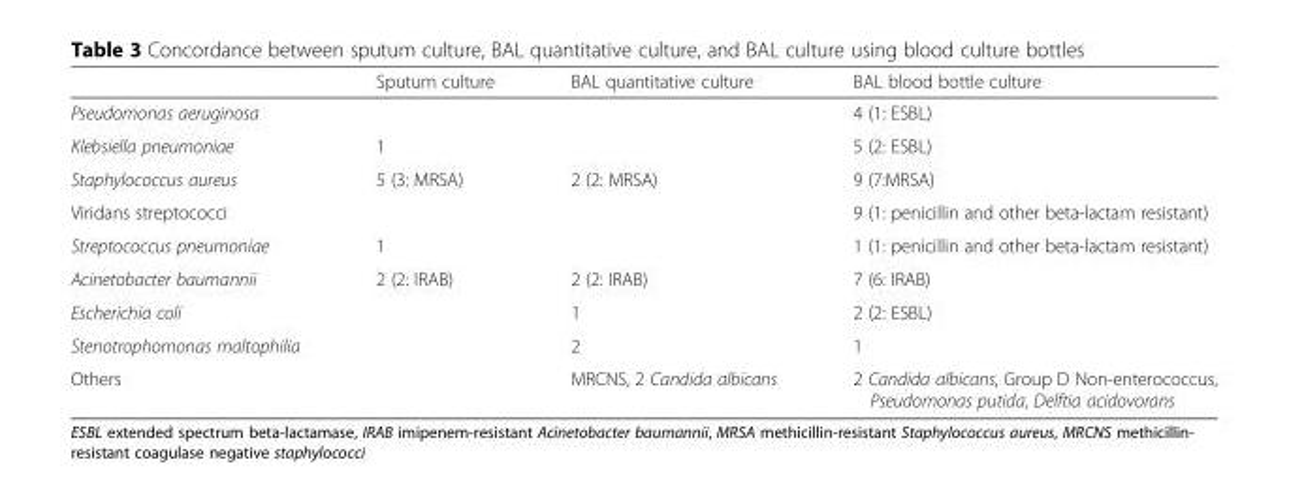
<table><thead><tr><td></td><td>Sputum culture</td><td>BAL quantitative culture</td><td>BAL blood bottle culture</td></tr></thead><tbody><tr><td>Pseudomonas aeruginosa</td><td></td><td></td><td>4 (1: ESBL)</td></tr><tr><td>Klebsiella pneumoniae</td><td>1</td><td></td><td>5 (2: ESBL)</td></tr><tr><td>Staphylococcus aureus</td><td>5 (3: MRSA)</td><td>2 (2: MRSA)</td><td>9 (7:MRSA)</td></tr><tr><td>Viridans streptococci</td><td></td><td></td><td>9 (1: penicillin and other beta-lactam resistant)</td></tr><tr><td>Streptococcus pneumoniae</td><td>1</td><td></td><td>1 (1: penicillin and other beta-lactam resistant)</td></tr><tr><td>Acinetobacter baumannii</td><td>2 (2: IRAB)</td><td>2 (2: IRAB)</td><td>7 (6: IRAB)</td></tr><tr><td>Escherichia coli</td><td></td><td>1</td><td>2 (2: ESBL)</td></tr><tr><td>Stenotrophomonas maltophilia</td><td></td><td>2</td><td>1</td></tr><tr><td>Others</td><td></td><td>MRCNS, 2 Candida albicans</td><td>2 Candida albicans, Group D Non-enterococcus, Pseudomonas putida, Delftia acidovorans</td></tr></tbody></table>